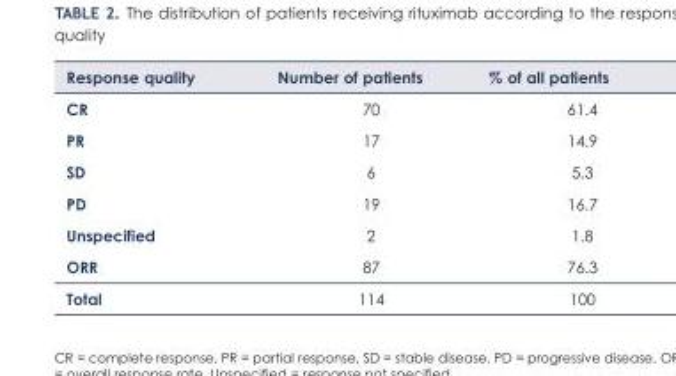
<table><thead><tr><td>Response quality</td><td>Number of patients</td><td>% of all patients</td></tr></thead><tbody><tr><td>CR</td><td>70</td><td>61.4</td></tr><tr><td>PR</td><td>17</td><td>14.9</td></tr><tr><td>SD</td><td>6</td><td>5.3</td></tr><tr><td>PD</td><td>19</td><td>16.7</td></tr><tr><td>Unspecified</td><td>2</td><td>1.8</td></tr><tr><td>ORR</td><td>87</td><td>76.3</td></tr><tr><td>Total</td><td>114</td><td>100</td></tr></tbody></table>